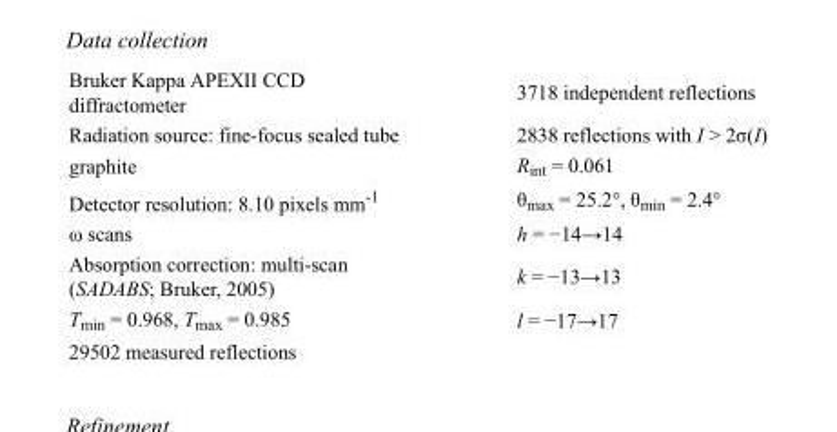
<table><tbody><tr><td>Bruker Kappa APEXII CCD diffractometer</td><td>3718 independent reflections</td></tr><tr><td>Radiation source: fine-focus sealed tube</td><td>2838 reflections with I &gt; 2σ(I)</td></tr><tr><td>graphite</td><td>R<sub>int</sub> = 0.061</td></tr><tr><td>Detector resolution: 8.10 pixels mm<sup>-1</sup></td><td>θ<sub>max</sub> = 25.2°, θ<sub>min</sub> = 2.4°</td></tr><tr><td>ω scans</td><td>h = −14→14</td></tr><tr><td>Absorption correction: multi-scan (SADABS; Bruker, 2005)</td><td>k = −13→13</td></tr><tr><td>T<sub>min</sub> = 0.968, T<sub>max</sub> = 0.985</td><td>l = −17→17</td></tr><tr><td>29502 measured reflections</td><td></td></tr></tbody></table>